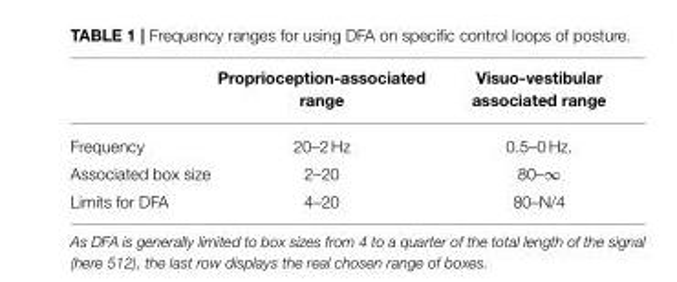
<table><thead><tr><td></td><td>Proprioception-associated range</td><td>Visuo-vestibular associated range</td></tr></thead><tbody><tr><td>Frequency</td><td>20–2 Hz</td><td>0.5–0 Hz.</td></tr><tr><td>Associated box size</td><td>2–20</td><td>80–∞</td></tr><tr><td>Limits for DFA</td><td>4–20</td><td>80–N/4</td></tr></tbody></table>